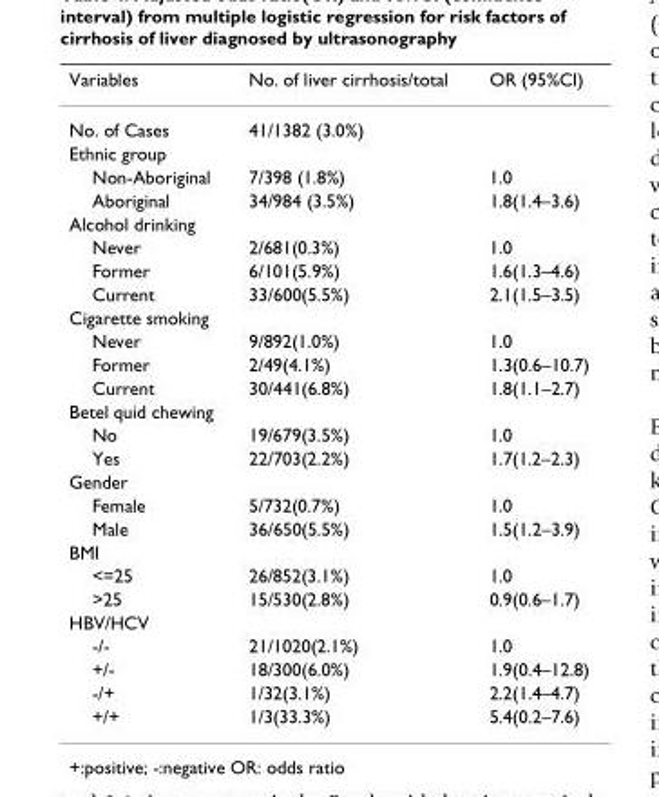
<table><thead><tr><td>Variables</td><td>No. of liver cirrhosis/total</td><td>OR (95%CI)</td></tr></thead><tbody><tr><td>No. of Cases</td><td>41/1382 (3.0%)</td><td></td></tr><tr><td colspan="3">Ethnic group</td></tr><tr><td>Non-Aboriginal</td><td>7/398 (1.8%)</td><td>1.0</td></tr><tr><td>Aboriginal</td><td>34/984 (3.5%)</td><td>1.8(1.4–3.6)</td></tr><tr><td colspan="3">Alcohol drinking</td></tr><tr><td>Never</td><td>2/681(0.3%)</td><td>1.0</td></tr><tr><td>Former</td><td>6/101(5.9%)</td><td>1.6(1.3–4.6)</td></tr><tr><td>Current</td><td>33/600(5.5%)</td><td>2.1(1.5–3.5)</td></tr><tr><td colspan="3">Cigarette smoking</td></tr><tr><td>Never</td><td>9/892(1.0%)</td><td>1.0</td></tr><tr><td>Former</td><td>2/49(4.1%)</td><td>1.3(0.6–10.7)</td></tr><tr><td>Current</td><td>30/441(6.8%)</td><td>1.8(1.1–2.7)</td></tr><tr><td colspan="3">Betel quid chewing</td></tr><tr><td>No</td><td>19/679(3.5%)</td><td>1.0</td></tr><tr><td>Yes</td><td>22/703(2.2%)</td><td>1.7(1.2–2.3)</td></tr><tr><td colspan="3">Gender</td></tr><tr><td>Female</td><td>5/732(0.7%)</td><td>1.0</td></tr><tr><td>Male</td><td>36/650(5.5%)</td><td>1.5(1.2–3.9)</td></tr><tr><td colspan="3">BMI</td></tr><tr><td>&lt;=25</td><td>26/852(3.1%)</td><td>1.0</td></tr><tr><td>&gt;25</td><td>15/530(2.8%)</td><td>0.9(0.6–1.7)</td></tr><tr><td colspan="3">HBV/HCV</td></tr><tr><td>-/-</td><td>21/1020(2.1%)</td><td>1.0</td></tr><tr><td>+/-</td><td>18/300(6.0%)</td><td>1.9(0.4–12.8)</td></tr><tr><td>-/+</td><td>1/32(3.1%)</td><td>2.2(1.4–4.7)</td></tr><tr><td>+/+</td><td>1/3(33.3%)</td><td>5.4(0.2–7.6)</td></tr></tbody></table>